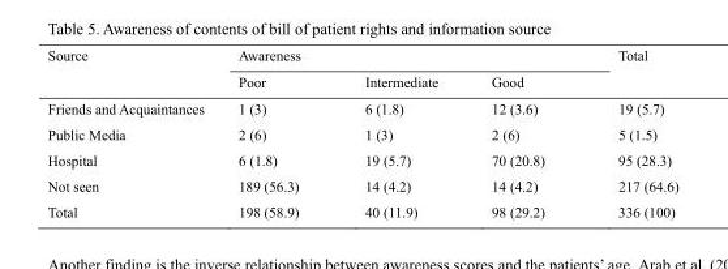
<table><thead><tr><td rowspan="2">Source</td><td colspan="3">Awareness</td><td rowspan="2">Total</td></tr><tr><td>Poor</td><td>Intermediate</td><td>Good</td></tr></thead><tbody><tr><td>Friends and Acquaintances</td><td>1 (3)</td><td>6 (1.8)</td><td>12 (3.6)</td><td>19 (5.7)</td></tr><tr><td>Public Media</td><td>2 (6)</td><td>1 (3)</td><td>2 (6)</td><td>5 (1.5)</td></tr><tr><td>Hospital</td><td>6 (1.8)</td><td>19 (5.7)</td><td>70 (20.8)</td><td>95 (28.3)</td></tr><tr><td>Not seen</td><td>189 (56.3)</td><td>14 (4.2)</td><td>14 (4.2)</td><td>217 (64.6)</td></tr><tr><td>Total</td><td>198 (58.9)</td><td>40 (11.9)</td><td>98 (29.2)</td><td>336 (100)</td></tr></tbody></table>